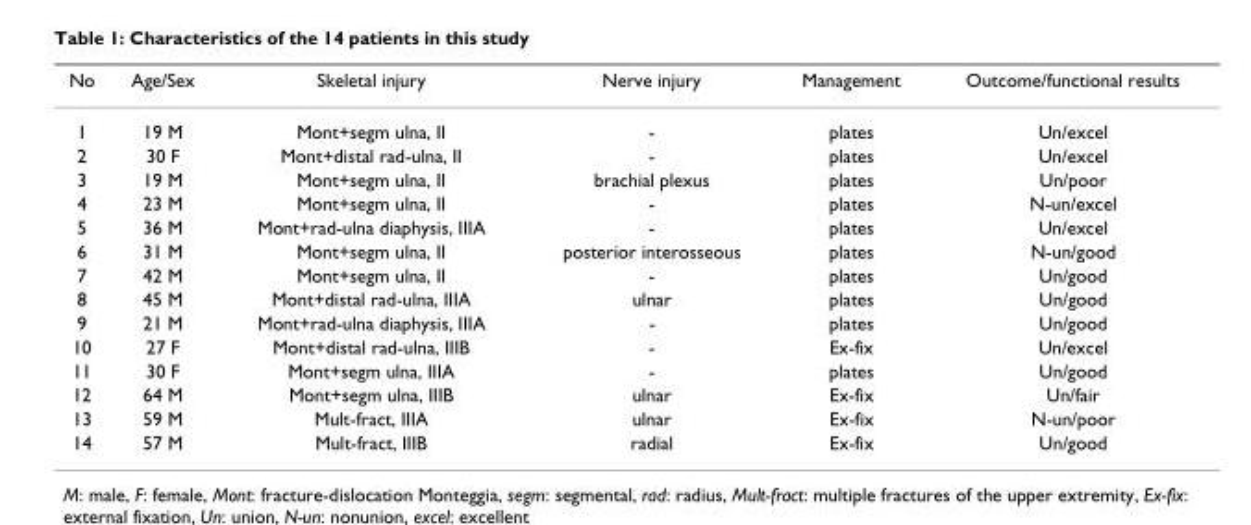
<table><thead><tr><td>No</td><td>Age/Sex</td><td>Skeletal injury</td><td>Nerve injury</td><td>Management</td><td>Outcome/functional results</td></tr></thead><tbody><tr><td>1</td><td>19 M</td><td>Mont+segm ulna, II</td><td>-</td><td>plates</td><td>Un/excel</td></tr><tr><td>2</td><td>30 F</td><td>Mont+distal rad-ulna, II</td><td>-</td><td>plates</td><td>Un/excel</td></tr><tr><td>3</td><td>19 M</td><td>Mont+segm ulna, II</td><td>brachial plexus</td><td>plates</td><td>Un/poor</td></tr><tr><td>4</td><td>23 M</td><td>Mont+segm ulna, II</td><td>-</td><td>plates</td><td>N-un/excel</td></tr><tr><td>5</td><td>36 M</td><td>Mont+rad-ulna diaphysis, IIIA</td><td>-</td><td>plates</td><td>Un/excel</td></tr><tr><td>6</td><td>31 M</td><td>Mont+segm ulna, II</td><td>posterior interosseous</td><td>plates</td><td>N-un/good</td></tr><tr><td>7</td><td>42 M</td><td>Mont+segm ulna, II</td><td>-</td><td>plates</td><td>Un/good</td></tr><tr><td>8</td><td>45 M</td><td>Mont+distal rad-ulna, IIIA</td><td>ulnar</td><td>plates</td><td>Un/good</td></tr><tr><td>9</td><td>21 M</td><td>Mont+rad-ulna diaphysis, IIIA</td><td>-</td><td>plates</td><td>Un/good</td></tr><tr><td>10</td><td>27 F</td><td>Mont+distal rad-ulna, IIIB</td><td>-</td><td>Ex-fix</td><td>Un/excel</td></tr><tr><td>11</td><td>30 F</td><td>Mont+segm ulna, IIIA</td><td>-</td><td>plates</td><td>Un/good</td></tr><tr><td>12</td><td>64 M</td><td>Mont+segm ulna, IIIB</td><td>ulnar</td><td>Ex-fix</td><td>Un/fair</td></tr><tr><td>13</td><td>59 M</td><td>Mult-fract, IIIA</td><td>ulnar</td><td>Ex-fix</td><td>N-un/poor</td></tr><tr><td>14</td><td>57 M</td><td>Mult-fract, IIIB</td><td>radial</td><td>Ex-fix</td><td>Un/good</td></tr></tbody></table>